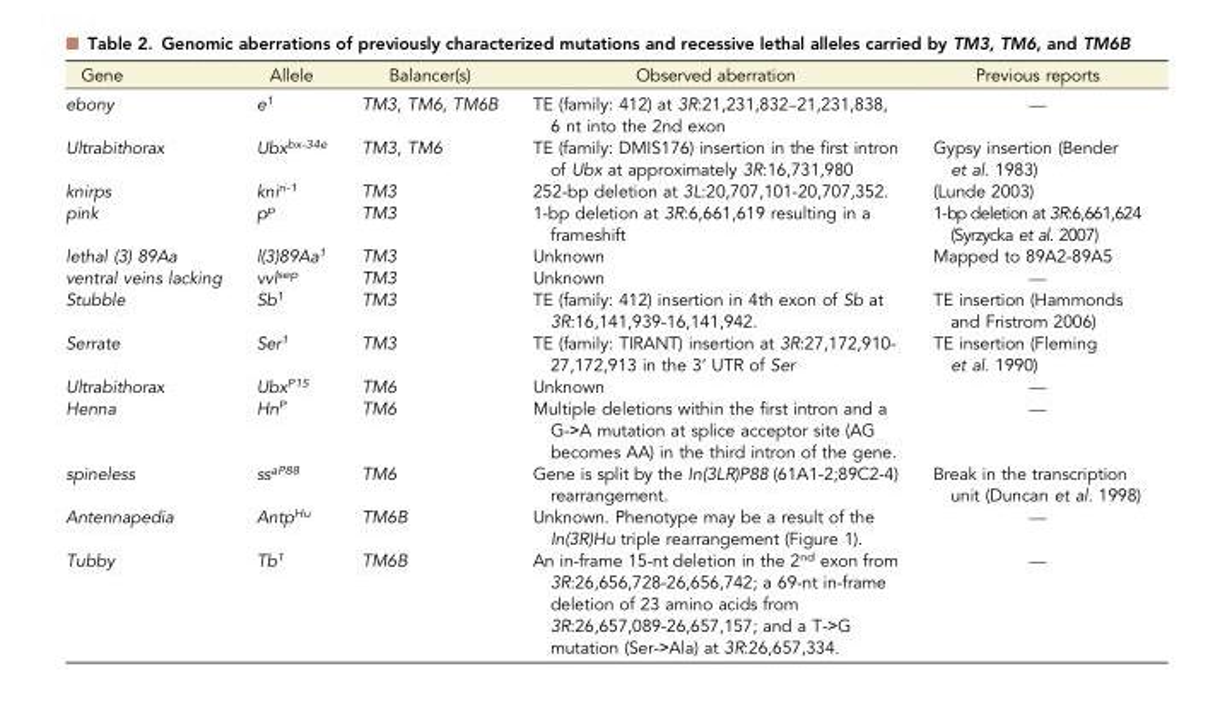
<table><thead><tr><td>Gene</td><td>Allele</td><td>Balancer(s)</td><td>Observed aberration</td><td>Previous reports</td></tr></thead><tbody><tr><td>ebony</td><td>e<sup>1</sup></td><td>TM3, TM6, TM6B</td><td>TE (family: 412) at 3R:21,231,832–21,231,838, 6 nt into the 2nd exon</td><td>—</td></tr><tr><td>Ultrabithorax</td><td>Ubx<sup>bx-34e</sup></td><td>TM3, TM6</td><td>TE (family: DMIS176) insertion in the first intron of Ubx at approximately 3R:16,731,980</td><td>Gypsy insertion (Bender et al. 1983)</td></tr><tr><td>knirps</td><td>kni<sup>ri-1</sup></td><td>TM3</td><td>252-bp deletion at 3L:20,707,101-20,707,352.</td><td>(Lunde 2003)</td></tr><tr><td>pink</td><td>p<sup>p</sup></td><td>TM3</td><td>1-bp deletion at 3R:6,661,619 resulting in a frameshift</td><td>1-bp deletion at 3R:6,661,624 (Syrzycka et al. 2007)</td></tr><tr><td>lethal (3) 89Aa</td><td>l(3)89Aa<sup>1</sup></td><td>TM3</td><td>Unknown</td><td>Mapped to 89A2-89A5</td></tr><tr><td>ventral veins lacking</td><td>vvl<sup>sep</sup></td><td>TM3</td><td>Unknown</td><td>—</td></tr><tr><td>Stubble</td><td>Sb<sup>1</sup></td><td>TM3</td><td>TE (family: 412) insertion in 4th exon of Sb at 3R:16,141,939-16,141,942.</td><td>TE insertion (Hammonds and Fristrom 2006)</td></tr><tr><td>Serrate</td><td>Ser<sup>1</sup></td><td>TM3</td><td>TE (family: TIRANT) insertion at 3R:27,172,910- 27,172,913 in the 3’ UTR of Ser</td><td>TE insertion (Fleming et al. 1990)</td></tr><tr><td>Ultrabithorax</td><td>Ubx<sup>P15</sup></td><td>TM6</td><td>Unknown</td><td>—</td></tr><tr><td>Henna</td><td>Hn<sup>P</sup></td><td>TM6</td><td>Multiple deletions within the first intron and a G-&gt;A mutation at splice acceptor site (AG becomes AA) in the third intron of the gene.</td><td>—</td></tr><tr><td>spineless</td><td>ss<sup>aP88</sup></td><td>TM6</td><td>Gene is split by the In(3LR)P88 (61A1-2;89C2-4) rearrangement.</td><td>Break in the transcription unit (Duncan et al. 1998)</td></tr><tr><td>Antennapedia</td><td>Antp<sup>Hu</sup></td><td>TM6B</td><td>Unknown. Phenotype may be a result of the In(3R)Hu triple rearrangement (Figure 1).</td><td>—</td></tr><tr><td>Tubby</td><td>Tb<sup>1</sup></td><td>TM6B</td><td>An in-frame 15-nt deletion in the 2<sup>nd</sup> exon from 3R:26,656,728-26,656,742; a 69-nt in-frame deletion of 23 amino acids from 3R:26,657,089-26,657,157; and a T-&gt;G mutation (Ser-&gt;Ala) at 3R:26,657,334.</td><td>—</td></tr></tbody></table>